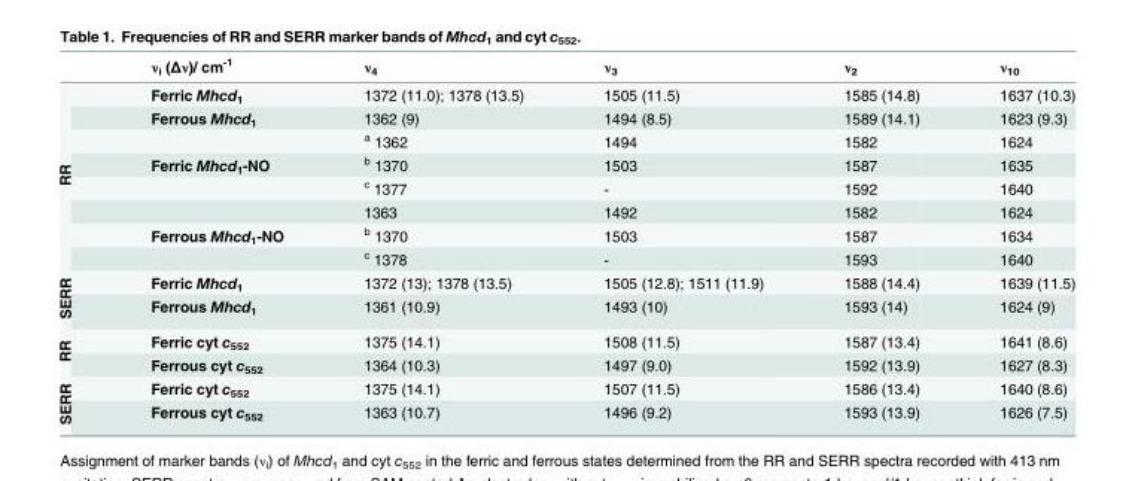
<table><thead><tr><td></td><td>ν<sub>i</sub> (Δν)/ cm<sup>-1</sup></td><td>ν<sub>4</sub></td><td>ν<sub>3</sub></td><td>ν<sub>2</sub></td><td>ν<sub>10</sub></td></tr></thead><tbody><tr><td rowspan="8">RR</td><td>Ferric Mhcd<sub>1</sub></td><td>1372 (11.0); 1378 (13.5)</td><td>1505 (11.5)</td><td>1585 (14.8)</td><td>1637 (10.3)</td></tr><tr><td>Ferrous Mhcd<sub>1</sub></td><td>1362 (9)</td><td>1494 (8.5)</td><td>1589 (14.1)</td><td>1623 (9.3)</td></tr><tr><td></td><td><sup>a</sup> 1362</td><td>1494</td><td>1582</td><td>1624</td></tr><tr><td>Ferric Mhcd<sub>1</sub>-NO</td><td><sup>b</sup> 1370</td><td>1503</td><td>1587</td><td>1635</td></tr><tr><td></td><td><sup>c</sup> 1377</td><td>-</td><td>1592</td><td>1640</td></tr><tr><td></td><td>1363</td><td>1492</td><td>1582</td><td>1624</td></tr><tr><td>Ferrous Mhcd<sub>1</sub>-NO</td><td><sup>b</sup> 1370</td><td>1503</td><td>1587</td><td>1634</td></tr><tr><td></td><td><sup>c</sup> 1378</td><td>-</td><td>1593</td><td>1640</td></tr><tr><td rowspan="2">SERR</td><td>Ferric Mhcd<sub>1</sub></td><td>1372 (13); 1378 (13.5)</td><td>1505 (12.8); 1511 (11.9)</td><td>1588 (14.4)</td><td>1639 (11.5)</td></tr><tr><td>Ferrous Mhcd<sub>1</sub></td><td>1361 (10.9)</td><td>1493 (10)</td><td>1593 (14)</td><td>1624 (9)</td></tr><tr><td rowspan="2">RR</td><td>Ferric cyt c<sub>552</sub></td><td>1375 (14.1)</td><td>1508 (11.5)</td><td>1587 (13.4)</td><td>1641 (8.6)</td></tr><tr><td>Ferrous cyt c<sub>552</sub></td><td>1364 (10.3)</td><td>1497 (9.0)</td><td>1592 (13.9)</td><td>1627 (8.3)</td></tr><tr><td rowspan="2">SERR</td><td>Ferric cyt c<sub>552</sub></td><td>1375 (14.1)</td><td>1507 (11.5)</td><td>1586 (13.4)</td><td>1640 (8.6)</td></tr><tr><td>Ferrous cyt c<sub>552</sub></td><td>1363 (10.7)</td><td>1496 (9.2)</td><td>1593 (13.9)</td><td>1626 (7.5)</td></tr></tbody></table>